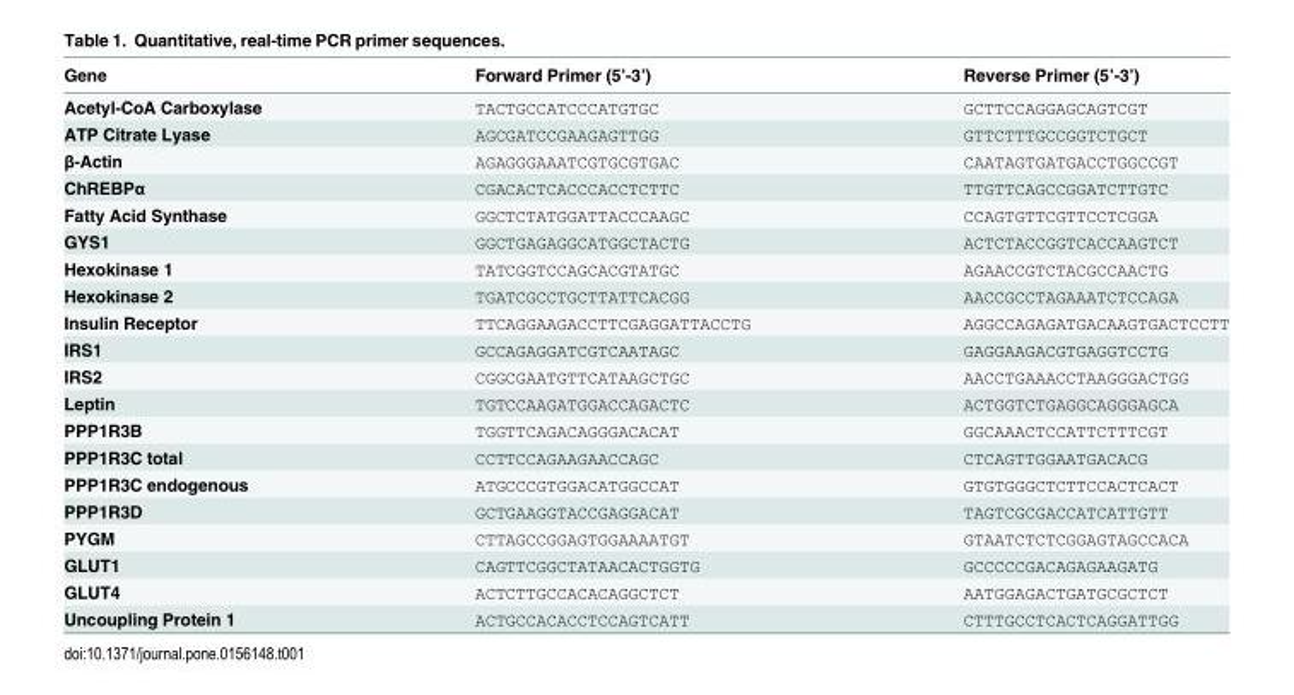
<table><thead><tr><td>Gene</td><td>Forward Primer (5’-3’)</td><td>Reverse Primer (5’-3’)</td></tr></thead><tbody><tr><td>Acetyl-CoA Carboxylase</td><td>TACTGCCATCCCATGTGC</td><td>GCTTCCAGGAGCAGTCGT</td></tr><tr><td>ATP Citrate Lyase</td><td>AGCGATCCGAAGAGTTGG</td><td>GTTCTTTGCCGGTCTGCT</td></tr><tr><td>β-Actin</td><td>AGAGGGAAATCGTGCGTGAC</td><td>CAATAGTGATGACCTGGCCGT</td></tr><tr><td>ChREBPα</td><td>CGACACTCACCCACCTCTTC</td><td>TTGTTCAGCCGGATCTTGTC</td></tr><tr><td>Fatty Acid Synthase</td><td>GGCTCTATGGATTACCCAAGC</td><td>CCAGTGTTCGTTCCTCGGA</td></tr><tr><td>GYS1</td><td>GGCTGAGAGGCATGGCTACTG</td><td>ACTCTACCGGTCACCAAGTCT</td></tr><tr><td>Hexokinase 1</td><td>TATCGGTCCAGCACGTATGC</td><td>AGAACCGTCTACGCCAACTG</td></tr><tr><td>Hexokinase 2</td><td>TGATCGCCTGCTTATTCACGG</td><td>AACCGCCTAGAAATCTCCAGA</td></tr><tr><td>Insulin Receptor</td><td>TTCAGGAAGACCTTCGAGGATTACCTG</td><td>AGGCCAGAGATGACAAGTGACTCCTT</td></tr><tr><td>IRS1</td><td>GCCAGAGGATCGTCAATAGC</td><td>GAGGAAGACGTGAGGTCCTG</td></tr><tr><td>IRS2</td><td>CGGCGAATGTTCATAAGCTGC</td><td>AACCTGAAACCTAAGGGACTGG</td></tr><tr><td>Leptin</td><td>TGTCCAAGATGGACCAGACTC</td><td>ACTGGTCTGAGGCAGGGAGCA</td></tr><tr><td>PPP1R3B</td><td>TGGTTCAGACAGGGACACAT</td><td>GGCAAACTCCATTCTTTCGT</td></tr><tr><td>PPP1R3C total</td><td>CCTTCCAGAAGAACCAGC</td><td>CTCAGTTGGAATGACACG</td></tr><tr><td>PPP1R3C endogenous</td><td>ATGCCCGTGGACATGGCCAT</td><td>GTGTGGGCTCTTCCACTCACT</td></tr><tr><td>PPP1R3D</td><td>GCTGAAGGTACCGAGGACAT</td><td>TAGTCGCGACCATCATTGTT</td></tr><tr><td>PYGM</td><td>CTTAGCCGGAGTGGAAAATGT</td><td>GTAATCTCTCGGAGTAGCCACA</td></tr><tr><td>GLUT1</td><td>CAGTTCGGCTATAACACTGGTG</td><td>GCCCCCGACAGAGAAGATG</td></tr><tr><td>GLUT4</td><td>ACTCTTGCCACACAGGCTCT</td><td>AATGGAGACTGATGCGCTCT</td></tr><tr><td>Uncoupling Protein 1</td><td>ACTGCCACACCTCCAGTCATT</td><td>CTTTGCCTCACTCAGGATTGG</td></tr></tbody></table>